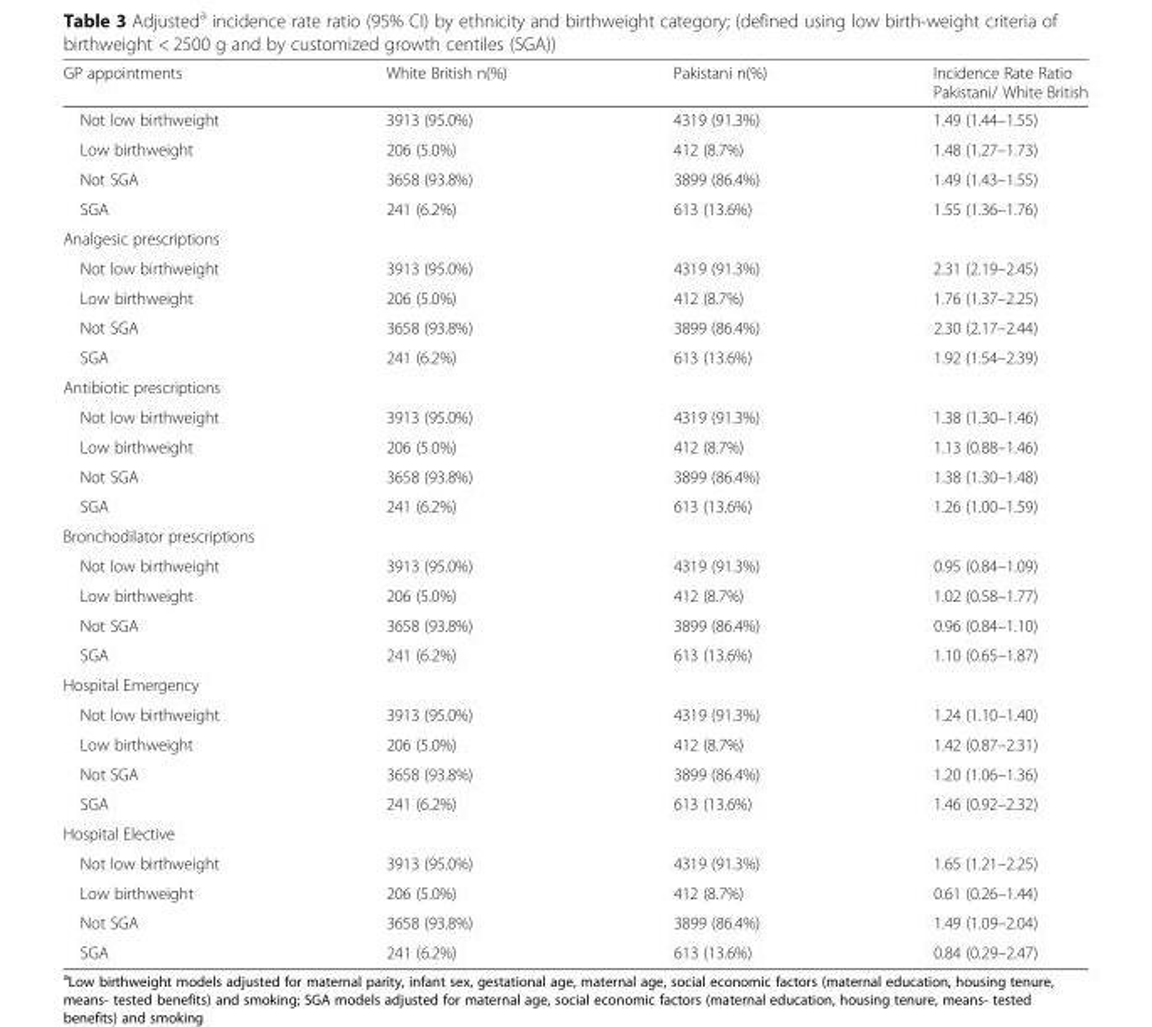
<table><thead><tr><td>GP appointments</td><td>White British n(%)</td><td>Pakistani n(%)</td><td>Incidence Rate Ratio Pakistani/ White British</td></tr></thead><tbody><tr><td>Not low birthweight</td><td>3913 (95.0%)</td><td>4319 (91.3%)</td><td>1.49 (1.44–1.55)</td></tr><tr><td>Low birthweight</td><td>206 (5.0%)</td><td>412 (8.7%)</td><td>1.48 (1.27–1.73)</td></tr><tr><td>Not SGA</td><td>3658 (93.8%)</td><td>3899 (86.4%)</td><td>1.49 (1.43–1.55)</td></tr><tr><td>SGA</td><td>241 (6.2%)</td><td>613 (13.6%)</td><td>1.55 (1.36–1.76)</td></tr><tr><td colspan="4">Analgesic prescriptions</td></tr><tr><td>Not low birthweight</td><td>3913 (95.0%)</td><td>4319 (91.3%)</td><td>2.31 (2.19–2.45)</td></tr><tr><td>Low birthweight</td><td>206 (5.0%)</td><td>412 (8.7%)</td><td>1.76 (1.37–2.25)</td></tr><tr><td>Not SGA</td><td>3658 (93.8%)</td><td>3899 (86.4%)</td><td>2.30 (2.17–2.44)</td></tr><tr><td>SGA</td><td>241 (6.2%)</td><td>613 (13.6%)</td><td>1.92 (1.54–2.39)</td></tr><tr><td colspan="4">Antibiotic prescriptions</td></tr><tr><td>Not low birthweight</td><td>3913 (95.0%)</td><td>4319 (91.3%)</td><td>1.38 (1.30–1.46)</td></tr><tr><td>Low birthweight</td><td>206 (5.0%)</td><td>412 (8.7%)</td><td>1.13 (0.88–1.46)</td></tr><tr><td>Not SGA</td><td>3658 (93.8%)</td><td>3899 (86.4%)</td><td>1.38 (1.30–1.48)</td></tr><tr><td>SGA</td><td>241 (6.2%)</td><td>613 (13.6%)</td><td>1.26 (1.00–1.59)</td></tr><tr><td colspan="4">Bronchodilator prescriptions</td></tr><tr><td>Not low birthweight</td><td>3913 (95.0%)</td><td>4319 (91.3%)</td><td>0.95 (0.84–1.09)</td></tr><tr><td>Low birthweight</td><td>206 (5.0%)</td><td>412 (8.7%)</td><td>1.02 (0.58–1.77)</td></tr><tr><td>Not SGA</td><td>3658 (93.8%)</td><td>3899 (86.4%)</td><td>0.96 (0.84–1.10)</td></tr><tr><td>SGA</td><td>241 (6.2%)</td><td>613 (13.6%)</td><td>1.10 (0.65–1.87)</td></tr><tr><td colspan="4">Hospital Emergency</td></tr><tr><td>Not low birthweight</td><td>3913 (95.0%)</td><td>4319 (91.3%)</td><td>1.24 (1.10–1.40)</td></tr><tr><td>Low birthweight</td><td>206 (5.0%)</td><td>412 (8.7%)</td><td>1.42 (0.87–2.31)</td></tr><tr><td>Not SGA</td><td>3658 (93.8%)</td><td>3899 (86.4%)</td><td>1.20 (1.06–1.36)</td></tr><tr><td>SGA</td><td>241 (6.2%)</td><td>613 (13.6%)</td><td>1.46 (0.92–2.32)</td></tr><tr><td colspan="4">Hospital Elective</td></tr><tr><td>Not low birthweight</td><td>3913 (95.0%)</td><td>4319 (91.3%)</td><td>1.65 (1.21–2.25)</td></tr><tr><td>Low birthweight</td><td>206 (5.0%)</td><td>412 (8.7%)</td><td>0.61 (0.26–1.44)</td></tr><tr><td>Not SGA</td><td>3658 (93.8%)</td><td>3899 (86.4%)</td><td>1.49 (1.09–2.04)</td></tr><tr><td>SGA</td><td>241 (6.2%)</td><td>613 (13.6%)</td><td>0.84 (0.29–2.47)</td></tr></tbody></table>